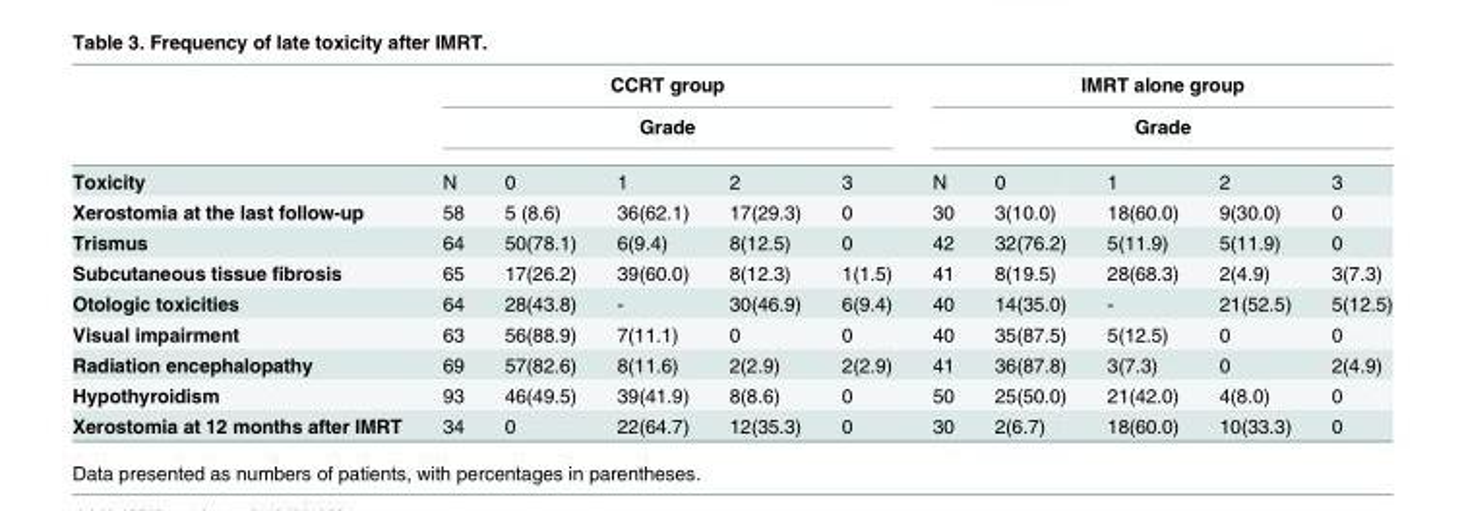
<table><thead><tr><td rowspan="3">Toxicity</td><td rowspan="2" colspan="5">CCRT group Grade</td><td rowspan="2" colspan="5">IMRT alone group Grade</td></tr><tr></tr><tr><td>N</td><td>0</td><td>1</td><td>2</td><td>3</td><td>N</td><td>0</td><td>1</td><td>2</td><td>3</td></tr></thead><tbody><tr><td>Xerostomia at the last follow-up</td><td>58</td><td>5 (8.6)</td><td>36(62.1)</td><td>17(29.3)</td><td>0</td><td>30</td><td>3(10.0)</td><td>18(60.0)</td><td>9(30.0)</td><td>0</td></tr><tr><td>Trismus</td><td>64</td><td>50(78.1)</td><td>6(9.4)</td><td>8(12.5)</td><td>0</td><td>42</td><td>32(76.2)</td><td>5(11.9)</td><td>5(11.9)</td><td>0</td></tr><tr><td>Subcutaneous tissue fibrosis</td><td>65</td><td>17(26.2)</td><td>39(60.0)</td><td>8(12.3)</td><td>1(1.5)</td><td>41</td><td>8(19.5)</td><td>28(68.3)</td><td>2(4.9)</td><td>3(7.3)</td></tr><tr><td>Otologic toxicities</td><td>64</td><td>28(43.8)</td><td>-</td><td>30(46.9)</td><td>6(9.4)</td><td>40</td><td>14(35.0)</td><td>-</td><td>21(52.5)</td><td>5(12.5)</td></tr><tr><td>Visual impairment</td><td>63</td><td>56(88.9)</td><td>7(11.1)</td><td>0</td><td>0</td><td>40</td><td>35(87.5)</td><td>5(12.5)</td><td>0</td><td>0</td></tr><tr><td>Radiation encephalopathy</td><td>69</td><td>57(82.6)</td><td>8(11.6)</td><td>2(2.9)</td><td>2(2.9)</td><td>41</td><td>36(87.8)</td><td>3(7.3)</td><td>0</td><td>2(4.9)</td></tr><tr><td>Hypothyroidism</td><td>93</td><td>46(49.5)</td><td>39(41.9)</td><td>8(8.6)</td><td>0</td><td>50</td><td>25(50.0)</td><td>21(42.0)</td><td>4(8.0)</td><td>0</td></tr><tr><td>Xerostomia at 12 months after IMRT</td><td>34</td><td>0</td><td>22(64.7)</td><td>12(35.3)</td><td>0</td><td>30</td><td>2(6.7)</td><td>18(60.0)</td><td>10(33.3)</td><td>0</td></tr></tbody></table>